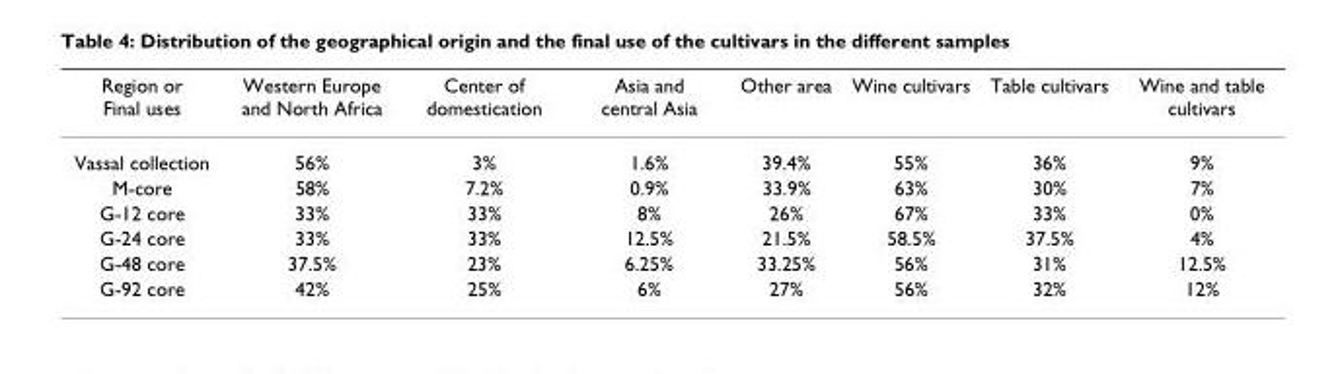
<table><thead><tr><td>Region or Final uses</td><td>Western Europe and North Africa</td><td>Center of domestication</td><td>Asia and central Asia</td><td>Other area</td><td>Wine cultivars</td><td>Table cultivars</td><td>Wine and table cultivars</td></tr></thead><tbody><tr><td>Vassal collection</td><td>56%</td><td>3%</td><td>1.6%</td><td>39.4%</td><td>55%</td><td>36%</td><td>9%</td></tr><tr><td>M-core</td><td>58%</td><td>7.2%</td><td>0.9%</td><td>33.9%</td><td>63%</td><td>30%</td><td>7%</td></tr><tr><td>G-12 core</td><td>33%</td><td>33%</td><td>8%</td><td>26%</td><td>67%</td><td>33%</td><td>0%</td></tr><tr><td>G-24 core</td><td>33%</td><td>33%</td><td>12.5%</td><td>21.5%</td><td>58.5%</td><td>37.5%</td><td>4%</td></tr><tr><td>G-48 core</td><td>37.5%</td><td>23%</td><td>6.25%</td><td>33.25%</td><td>56%</td><td>31%</td><td>12.5%</td></tr><tr><td>G-92 core</td><td>42%</td><td>25%</td><td>6%</td><td>27%</td><td>56%</td><td>32%</td><td>12%</td></tr></tbody></table>